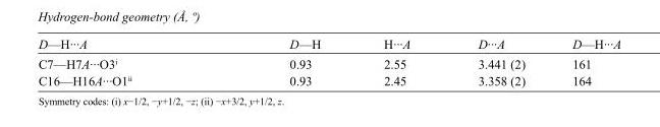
<table><tbody><tr><td>D—H···A</td><td>D—H</td><td>H···A</td><td>D···A</td><td>D—H···A</td></tr><tr><td>C7—H7A···O3<sup>i</sup></td><td>0.93</td><td>2.55</td><td>3.441 (2)</td><td>161</td></tr><tr><td>C16—H16A···O1<sup>ii</sup></td><td>0.93</td><td>2.45</td><td>3.358 (2)</td><td>164</td></tr></tbody></table>